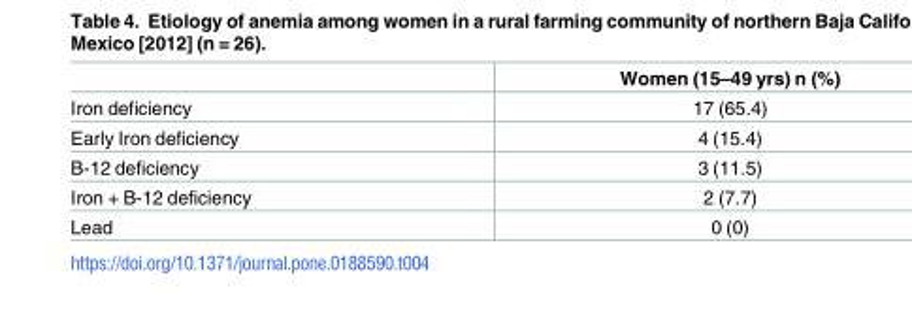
<table><thead><tr><td></td><td>Women (15–49 yrs) n (%)</td></tr></thead><tbody><tr><td>Iron deficiency</td><td>17 (65.4)</td></tr><tr><td>Early Iron deficiency</td><td>4 (15.4)</td></tr><tr><td>B-12 deficiency</td><td>3 (11.5)</td></tr><tr><td>Iron + B-12 deficiency</td><td>2 (7.7)</td></tr><tr><td>Lead</td><td>0 (0)</td></tr></tbody></table>